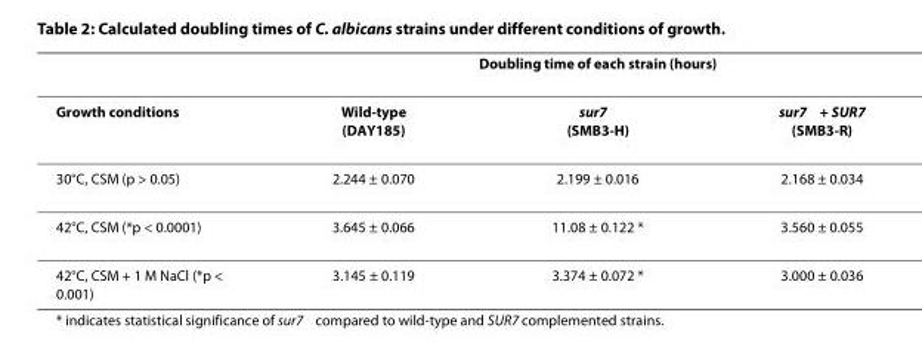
<table><thead><tr><td rowspan="2">Growth conditions</td><td colspan="3">Doubling time of each strain (hours)</td></tr><tr><td>Wild-type (DAY185)</td><td>sur7 (SMB3-H)</td><td>sur7 + SUR7 (SMB3-R)</td></tr></thead><tbody><tr><td>30°C, CSM (p &gt; 0.05)</td><td>2.244 ± 0.070</td><td>2.199 ± 0.016</td><td>2.168 ± 0.034</td></tr><tr><td>42°C, CSM (*p &lt; 0.0001)</td><td>3.645 ± 0.066</td><td>11.08 ± 0.122 *</td><td>3.560 ± 0.055</td></tr><tr><td>42°C, CSM + 1 M NaCl (*p &lt; 0.001)</td><td>3.145 ± 0.119</td><td>3.374 ± 0.072 *</td><td>3.000 ± 0.036</td></tr></tbody></table>